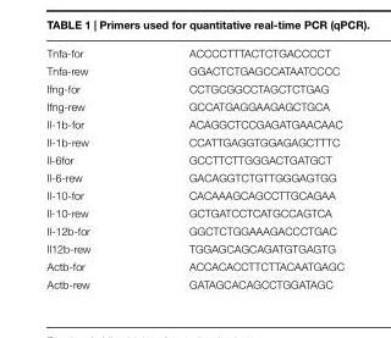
<table><tbody><tr><td>Tnfa-for</td><td>ACCCCTTTACTCTGACCCCT</td></tr><tr><td>Tnfa-rew</td><td>GGACTCTGAGCCATAATCCCC</td></tr><tr><td>Ifng-for</td><td>CCTGCGGCCTAGCTCTGAG</td></tr><tr><td>Ifng-rew</td><td>GCCATGAGGAAGAGCTGCA</td></tr><tr><td>Il-1b-for</td><td>ACAGGCTCCGAGATGAACAAC</td></tr><tr><td>Il-1b-rew</td><td>CCATTGAGGTGGAGAGCTTTC</td></tr><tr><td>Il-6for</td><td>GCCTTCTTGGGACTGATGCT</td></tr><tr><td>Il-6-rew</td><td>GACAGGTCTGTTGGGAGTGG</td></tr><tr><td>Il-10-for</td><td>CACAAAGCAGCCTTGCAGAA</td></tr><tr><td>Il-10-rew</td><td>GCTGATCCTCATGCCAGTCA</td></tr><tr><td>Il-12b-for</td><td>GGCTCTGGAAAGACCCTGAC</td></tr><tr><td>Il12b-rew</td><td>TGGAGCAGCAGATGTGAGTG</td></tr><tr><td>Actb-for</td><td>ACCACACCTTCTTACAATGAGC</td></tr><tr><td>Actb-rew</td><td>GATAGCACAGCCTGGATAGC</td></tr></tbody></table>